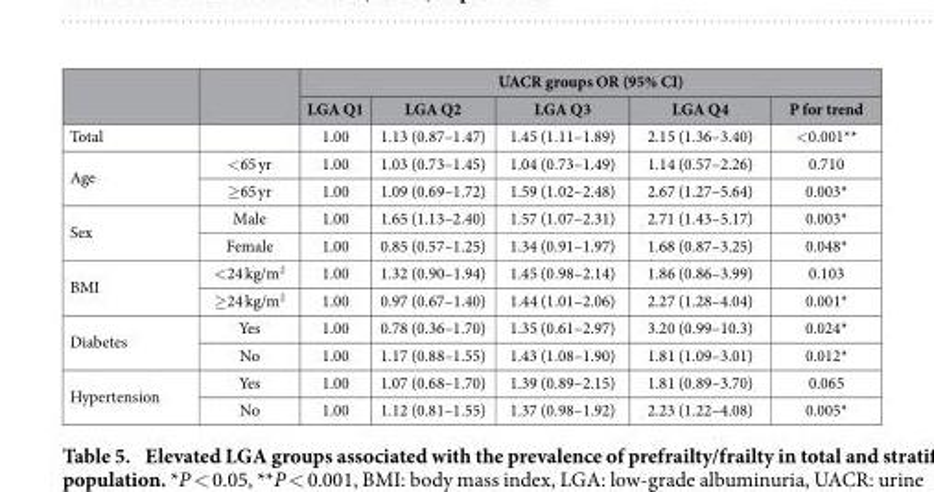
<table><thead><tr><td rowspan="2"></td><td rowspan="2"></td><td colspan="5">UACR groups OR (95% CI)</td></tr><tr><td>LGA Q1</td><td>LGA Q2</td><td>LGA Q3</td><td>LGA Q4</td><td>P for trend</td></tr></thead><tbody><tr><td>Total</td><td></td><td>1.00</td><td>1.13 (0.87–1.47)</td><td>1.45 (1.11–1.89)</td><td>2.15 (1.36–3.40)</td><td>&lt; 0.001**</td></tr><tr><td rowspan="2">Age</td><td>&lt; 65 yr</td><td>1.00</td><td>1.03 (0.73–1.45)</td><td>1.04 (0.73–1.49)</td><td>1.14 (0.57–2.26)</td><td>0.710</td></tr><tr><td>≥ 65 yr</td><td>1.00</td><td>1.09 (0.69–1.72)</td><td>1.59 (1.02–2.48)</td><td>2.67 (1.27–5.64)</td><td>0.003*</td></tr><tr><td rowspan="2">Sex</td><td>Male</td><td>1.00</td><td>1.65 (1.13–2.40)</td><td>1.57 (1.07–2.31)</td><td>2.71 (1.43–5.17)</td><td>0.003*</td></tr><tr><td>Female</td><td>1.00</td><td>0.85 (0.57–1.25)</td><td>1.34 (0.91–1.97)</td><td>1.68 (0.87–3.25)</td><td>0.048*</td></tr><tr><td rowspan="2">BMI</td><td>&lt; 24 kg/m<sup>2</sup></td><td>1.00</td><td>1.32 (0.90–1.94)</td><td>1.45 (0.98–2.14)</td><td>1.86 (0.86–3.99)</td><td>0.103</td></tr><tr><td>≥ 24 kg/m<sup>2</sup></td><td>1.00</td><td>0.97 (0.67–1.40)</td><td>1.44 (1.01–2.06)</td><td>2.27 (1.28–4.04)</td><td>0.001*</td></tr><tr><td rowspan="2">Diabetes</td><td>Yes</td><td>1.00</td><td>0.78 (0.36–1.70)</td><td>1.35 (0.61–2.97)</td><td>3.20 (0.99–10.3)</td><td>0.024*</td></tr><tr><td>No</td><td>1.00</td><td>1.17 (0.88–1.55)</td><td>1.43 (1.08–1.90)</td><td>1.81 (1.09–3.01)</td><td>0.012*</td></tr><tr><td rowspan="2">Hypertension</td><td>Yes</td><td>1.00</td><td>1.07 (0.68–1.70)</td><td>1.39 (0.89–2.15)</td><td>1.81 (0.89–3.70)</td><td>0.065</td></tr><tr><td>No</td><td>1.00</td><td>1.12 (0.81–1.55)</td><td>1.37 (0.98–1.92)</td><td>2.23 (1.22–4.08)</td><td>0.005*</td></tr></tbody></table>